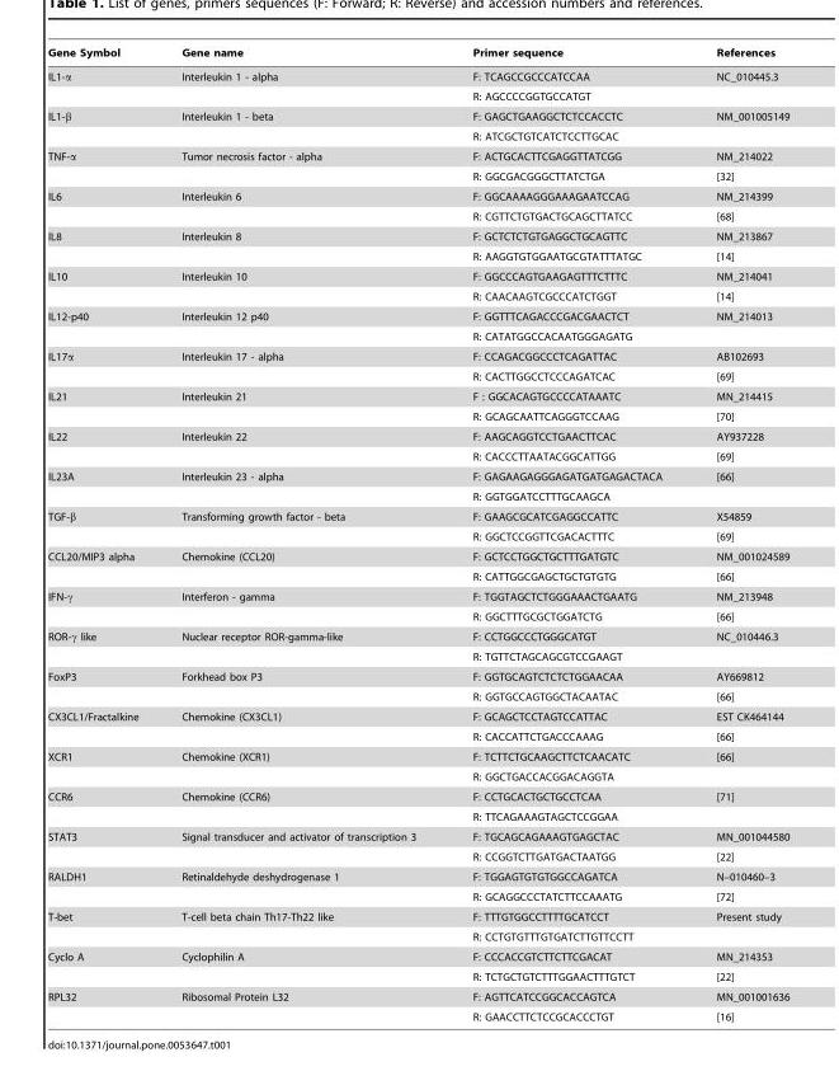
<table><thead><tr><td>Gene Symbol</td><td>Gene name</td><td>Primer sequence</td><td>References</td></tr></thead><tbody><tr><td rowspan="2">IL1-α</td><td>Interleukin 1 - alpha</td><td>F: TCAGCCGCCCATCCAA</td><td>NC_010445.3</td></tr><tr><td></td><td>R: AGCCCCGGTGCCATGT</td><td></td></tr><tr><td rowspan="2">IL1-β</td><td>Interleukin 1 - beta</td><td>F: GAGCTGAAGGCTCTCCACCTC</td><td>NM_001005149</td></tr><tr><td></td><td>R: ATCGCTGTCATCTCCTTGCAC</td><td></td></tr><tr><td rowspan="2">TNF-α</td><td>Tumor necrosis factor - alpha</td><td>F: ACTGCACTTCGAGGTTATCGG</td><td>NM_214022</td></tr><tr><td></td><td>R: GGCGACGGGCTTATCTGA</td><td>[32]</td></tr><tr><td rowspan="2">IL6</td><td>Interleukin 6</td><td>F: GGCAAAAGGGAAAGAATCCAG</td><td>NM_214399</td></tr><tr><td></td><td>R: CGTTCTGTGACTGCAGCTTATCC</td><td>[68]</td></tr><tr><td rowspan="2">IL8</td><td>Interleukin 8</td><td>F: GCTCTCTGTGAGGCTGCAGTTC</td><td>NM_213867</td></tr><tr><td></td><td>R: AAGGTGTGGAATGCGTATTTATGC</td><td>[14]</td></tr><tr><td rowspan="2">IL10</td><td>Interleukin 10</td><td>F: GGCCCAGTGAAGAGTTTCTTTC</td><td>NM_214041</td></tr><tr><td></td><td>R: CAACAAGTCGCCCATCTGGT</td><td>[14]</td></tr><tr><td rowspan="2">IL12-p40</td><td>Interleukin 12 p40</td><td>F: GGTTTCAGACCCGACGAACTCT</td><td>NM_214013</td></tr><tr><td></td><td>R: CATATGGCCACAATGGGAGATG</td><td></td></tr><tr><td rowspan="2">IL17α</td><td>Interleukin 17 - alpha</td><td>F: CCAGACGGCCCTCAGATTAC</td><td>AB102693</td></tr><tr><td></td><td>R: CACTTGGCCTCCCAGATCAC</td><td>[69]</td></tr><tr><td rowspan="2">IL21</td><td>Interleukin 21</td><td>F : GGCACAGTGCCCCATAAATC</td><td>MN_214415</td></tr><tr><td></td><td>R: GCAGCAATTCAGGGTCCAAG</td><td>[70]</td></tr><tr><td rowspan="2">IL22</td><td>Interleukin 22</td><td>F: AAGCAGGTCCTGAACTTCAC</td><td>AY937228</td></tr><tr><td></td><td>R: CACCCTTAATACGGCATTGG</td><td>[69]</td></tr><tr><td rowspan="2">IL23A</td><td>Interleukin 23 - alpha</td><td>F: GAGAAGAGGGAGATGATGAGACTACA</td><td>[66]</td></tr><tr><td></td><td>R: GGTGGATCCTTTGCAAGCA</td><td></td></tr><tr><td rowspan="2">TGF-β</td><td>Transforming growth factor - beta</td><td>F: GAAGCGCATCGAGGCCATTC</td><td>X54859</td></tr><tr><td></td><td>R: GGCTCCGGTTCGACACTTTC</td><td>[69]</td></tr><tr><td rowspan="2">CCL20/MIP3 alpha</td><td>Chemokine (CCL20)</td><td>F: GCTCCTGGCTGCTTTGATGTC</td><td>NM_001024589</td></tr><tr><td></td><td>R: CATTGGCGAGCTGCTGTGTG</td><td>[66]</td></tr><tr><td rowspan="2">IFN-γ</td><td>Interferon - gamma</td><td>F: TGGTAGCTCTGGGAAACTGAATG</td><td>NM_213948</td></tr><tr><td></td><td>R: GGCTTTGCGCTGGATCTG</td><td>[66]</td></tr><tr><td rowspan="2">ROR-γ like</td><td>Nuclear receptor ROR-gamma-like</td><td>F: CCTGGCCCTGGGCATGT</td><td>NC_010446.3</td></tr><tr><td></td><td>R: TGTTCTAGCAGCGTCCGAAGT</td><td></td></tr><tr><td rowspan="2">FoxP3</td><td>Forkhead box P3</td><td>F: GGTGCAGTCTCTCTGGAACAA</td><td>AY669812</td></tr><tr><td></td><td>R: GGTGCCAGTGGCTACAATAC</td><td>[66]</td></tr><tr><td rowspan="2">CX3CL1/Fractalkine</td><td>Chemokine (CX3CL1)</td><td>F: GCAGCTCCTAGTCCATTAC</td><td>EST CK464144</td></tr><tr><td></td><td>R: CACCATTCTGACCCAAAG</td><td>[66]</td></tr><tr><td rowspan="2">XCR1</td><td>Chemokine (XCR1)</td><td>F: TCTTCTGCAAGCTTCTCAACATC</td><td>[66]</td></tr><tr><td></td><td>R: GGCTGACCACGGACAGGTA</td><td></td></tr><tr><td rowspan="2">CCR6</td><td>Chemokine (CCR6)</td><td>F: CCTGCACTGCTGCCTCAA</td><td>[71]</td></tr><tr><td></td><td>R: TTCAGAAAGTAGCTCCGGAA</td><td></td></tr><tr><td rowspan="2">STAT3</td><td>Signal transducer and activator of transcription 3</td><td>F: TGCAGCAGAAAGTGAGCTAC</td><td>MN_001044580</td></tr><tr><td></td><td>R: CCGGTCTTGATGACTAATGG</td><td>[22]</td></tr><tr><td rowspan="2">RALDH1</td><td>Retinaldehyde deshydrogenase 1</td><td>F: TGGAGTGTGTGGCCAGATCA</td><td>N–010460–3</td></tr><tr><td></td><td>R: GCAGGCCCTATCTTCCAAATG</td><td>[72]</td></tr><tr><td rowspan="2">T-bet</td><td>T-cell beta chain Th17-Th22 like</td><td>F: TTTGTGGCCTTTTGCATCCT</td><td>Present study</td></tr><tr><td></td><td>R: CCTGTGTTTGTGATCTTGTTCCTT</td><td></td></tr><tr><td rowspan="2">Cyclo A</td><td>Cyclophilin A</td><td>F: CCCACCGTCTTCTTCGACAT</td><td>MN_214353</td></tr><tr><td></td><td>R: TCTGCTGTCTTTGGAACTTTGTCT</td><td>[22]</td></tr><tr><td rowspan="2">RPL32</td><td>Ribosomal Protein L32</td><td>F: AGTTCATCCGGCACCAGTCA</td><td>MN_001001636</td></tr><tr><td></td><td>R: GAACCTTCTCCGCACCCTGT</td><td>[16]</td></tr></tbody></table>